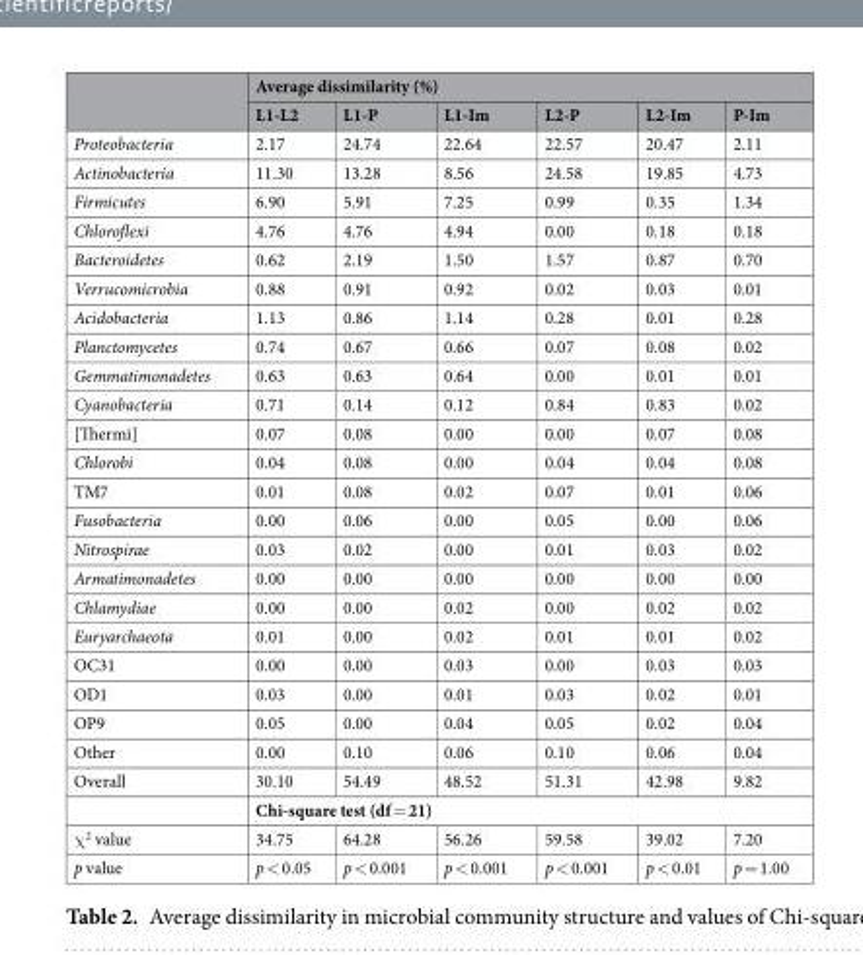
<table><thead><tr><td rowspan="2"></td><td colspan="6">Average dissimilarity (%)</td></tr><tr><td>L1-L2</td><td>L1-P</td><td>L1-Im</td><td>L2-P</td><td>L2-Im</td><td>P-Im</td></tr></thead><tbody><tr><td>Proteobacteria</td><td>2.17</td><td>24.74</td><td>22.64</td><td>22.57</td><td>20.47</td><td>2.11</td></tr><tr><td>Actinobacteria</td><td>11.30</td><td>13.28</td><td>8.56</td><td>24.58</td><td>19.85</td><td>4.73</td></tr><tr><td>Firmicutes</td><td>6.90</td><td>5.91</td><td>7.25</td><td>0.99</td><td>0.35</td><td>1.34</td></tr><tr><td>Chloroflexi</td><td>4.76</td><td>4.76</td><td>4.94</td><td>0.00</td><td>0.18</td><td>0.18</td></tr><tr><td>Bacteroidetes</td><td>0.62</td><td>2.19</td><td>1.50</td><td>1.57</td><td>0.87</td><td>0.70</td></tr><tr><td>Verrucomicrobia</td><td>0.88</td><td>0.91</td><td>0.92</td><td>0.02</td><td>0.03</td><td>0.01</td></tr><tr><td>Acidobacteria</td><td>1.13</td><td>0.86</td><td>1.14</td><td>0.28</td><td>0.01</td><td>0.28</td></tr><tr><td>Planctomycetes</td><td>0.74</td><td>0.67</td><td>0.66</td><td>0.07</td><td>0.08</td><td>0.02</td></tr><tr><td>Gemmatimonadetes</td><td>0.63</td><td>0.63</td><td>0.64</td><td>0.00</td><td>0.01</td><td>0.01</td></tr><tr><td>Cyanobacteria</td><td>0.71</td><td>0.14</td><td>0.12</td><td>0.84</td><td>0.83</td><td>0.02</td></tr><tr><td>[Thermi]</td><td>0.07</td><td>0.08</td><td>0.00</td><td>0.00</td><td>0.07</td><td>0.08</td></tr><tr><td>Chlorobi</td><td>0.04</td><td>0.08</td><td>0.00</td><td>0.04</td><td>0.04</td><td>0.08</td></tr><tr><td>TM7</td><td>0.01</td><td>0.08</td><td>0.02</td><td>0.07</td><td>0.01</td><td>0.06</td></tr><tr><td>Fusobacteria</td><td>0.00</td><td>0.06</td><td>0.00</td><td>0.05</td><td>0.00</td><td>0.06</td></tr><tr><td>Nitrospirae</td><td>0.03</td><td>0.02</td><td>0.00</td><td>0.01</td><td>0.03</td><td>0.02</td></tr><tr><td>Armatimonadetes</td><td>0.00</td><td>0.00</td><td>0.00</td><td>0.00</td><td>0.00</td><td>0.00</td></tr><tr><td>Chlamydiae</td><td>0.00</td><td>0.00</td><td>0.02</td><td>0.00</td><td>0.02</td><td>0.02</td></tr><tr><td>Euryarchaeota</td><td>0.01</td><td>0.00</td><td>0.02</td><td>0.01</td><td>0.01</td><td>0.02</td></tr><tr><td>OC31</td><td>0.00</td><td>0.00</td><td>0.03</td><td>0.00</td><td>0.03</td><td>0.03</td></tr><tr><td>OD1</td><td>0.03</td><td>0.00</td><td>0.01</td><td>0.03</td><td>0.02</td><td>0.01</td></tr><tr><td>OP9</td><td>0.05</td><td>0.00</td><td>0.04</td><td>0.05</td><td>0.02</td><td>0.04</td></tr><tr><td>Other</td><td>0.00</td><td>0.10</td><td>0.06</td><td>0.10</td><td>0.06</td><td>0.04</td></tr><tr><td rowspan="2">Overall</td><td>30.10</td><td>54.49</td><td>48.52</td><td>51.31</td><td>42.98</td><td>9.82</td></tr><tr><td colspan="6">Chi-square test (df = 21)</td></tr><tr><td>χ<sup>2</sup> value</td><td>34.75</td><td>64.28</td><td>56.26</td><td>59.58</td><td>39.02</td><td>7.20</td></tr><tr><td>p value</td><td>p &lt; 0.05</td><td>p &lt; 0.001</td><td>p &lt; 0.001</td><td>p &lt; 0.001</td><td>p &lt; 0.01</td><td>p = 1.00</td></tr></tbody></table>